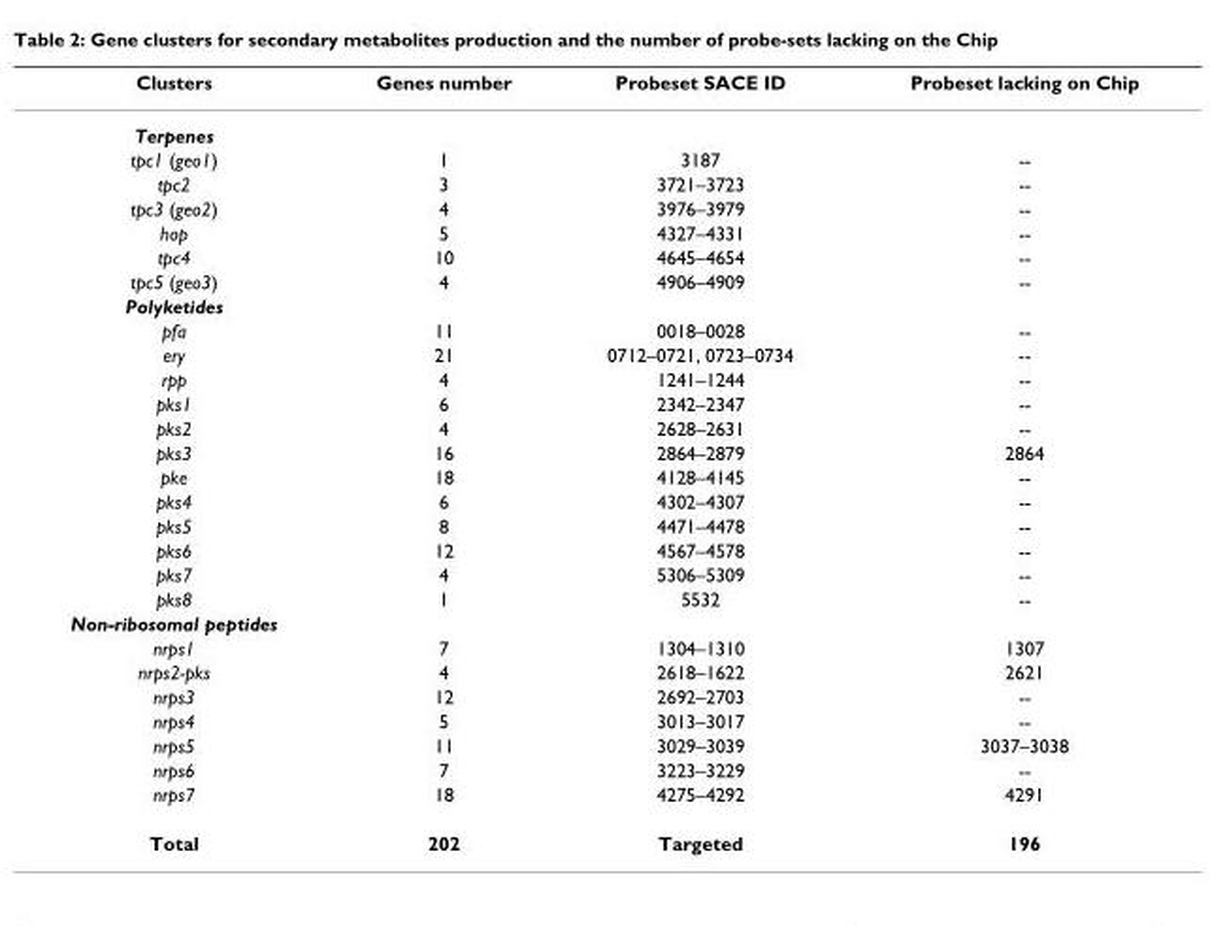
<table><thead><tr><td>Clusters</td><td>Genes number</td><td>Probeset SACE ID</td><td>Probeset lacking on Chip</td></tr></thead><tbody><tr><td colspan="4">Terpenes</td></tr><tr><td>tpc1 (geo1)</td><td>1</td><td>3187</td><td>--</td></tr><tr><td>tpc2</td><td>3</td><td>3721–3723</td><td>--</td></tr><tr><td>tpc3 (geo2)</td><td>4</td><td>3976–3979</td><td>--</td></tr><tr><td>hop</td><td>5</td><td>4327–4331</td><td>--</td></tr><tr><td>tpc4</td><td>10</td><td>4645–4654</td><td>--</td></tr><tr><td>tpc5 (geo3)</td><td>4</td><td>4906–4909</td><td>--</td></tr><tr><td colspan="4">Polyketides</td></tr><tr><td>pfa</td><td>11</td><td>0018–0028</td><td>--</td></tr><tr><td>ery</td><td>21</td><td>0712–0721, 0723–0734</td><td>--</td></tr><tr><td>rpp</td><td>4</td><td>1241–1244</td><td>--</td></tr><tr><td>pks1</td><td>6</td><td>2342–2347</td><td>--</td></tr><tr><td>pks2</td><td>4</td><td>2628–2631</td><td>--</td></tr><tr><td>pks3</td><td>16</td><td>2864–2879</td><td>2864</td></tr><tr><td>pke</td><td>18</td><td>4128–4145</td><td>--</td></tr><tr><td>pks4</td><td>6</td><td>4302–4307</td><td>--</td></tr><tr><td>pks5</td><td>8</td><td>4471–4478</td><td>--</td></tr><tr><td>pks6</td><td>12</td><td>4567–4578</td><td>--</td></tr><tr><td>pks7</td><td>4</td><td>5306–5309</td><td>--</td></tr><tr><td>pks8</td><td>1</td><td>5532</td><td>--</td></tr><tr><td colspan="4">Non-ribosomal peptides</td></tr><tr><td>nrps1</td><td>7</td><td>1304–1310</td><td>1307</td></tr><tr><td>nrps2-pks</td><td>4</td><td>2618–1622</td><td>2621</td></tr><tr><td>nrps3</td><td>12</td><td>2692–2703</td><td>--</td></tr><tr><td>nrps4</td><td>5</td><td>3013–3017</td><td>--</td></tr><tr><td>nrps5</td><td>11</td><td>3029–3039</td><td>3037–3038</td></tr><tr><td>nrps6</td><td>7</td><td>3223–3229</td><td>--</td></tr><tr><td>nrps7</td><td>18</td><td>4275–4292</td><td>4291</td></tr><tr><td>Total</td><td>202</td><td>Targeted</td><td>196</td></tr></tbody></table>